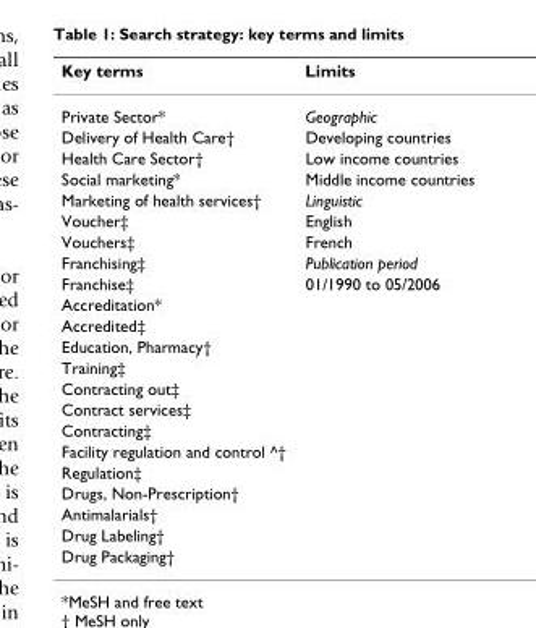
<table><thead><tr><td>Key terms</td><td>Limits</td></tr></thead><tbody><tr><td>Private Sector*</td><td>Geographic</td></tr><tr><td>Delivery of Health Care†</td><td>Developing countries</td></tr><tr><td>Health Care Sector†</td><td>Low income countries</td></tr><tr><td>Social marketing*</td><td>Middle income countries</td></tr><tr><td>Marketing of health services†</td><td>Linguistic</td></tr><tr><td>Voucher‡</td><td>English</td></tr><tr><td>Vouchers‡</td><td>French</td></tr><tr><td>Franchising‡</td><td>Publication period</td></tr><tr><td>Franchise‡</td><td>01/1990 to 05/2006</td></tr><tr><td colspan="2">Accreditation*</td></tr><tr><td colspan="2">Accredited‡</td></tr><tr><td colspan="2">Education, Pharmacy†</td></tr><tr><td colspan="2">Training‡</td></tr><tr><td colspan="2">Contracting out‡</td></tr><tr><td colspan="2">Contract services‡</td></tr><tr><td colspan="2">Contracting‡</td></tr><tr><td colspan="2">Facility regulation and control ^†</td></tr><tr><td colspan="2">Regulation‡</td></tr><tr><td colspan="2">Drugs, Non-Prescription†</td></tr><tr><td colspan="2">Antimalarials†</td></tr><tr><td colspan="2">Drug Labeling†</td></tr><tr><td>Drug Packaging†</td><td></td></tr></tbody></table>